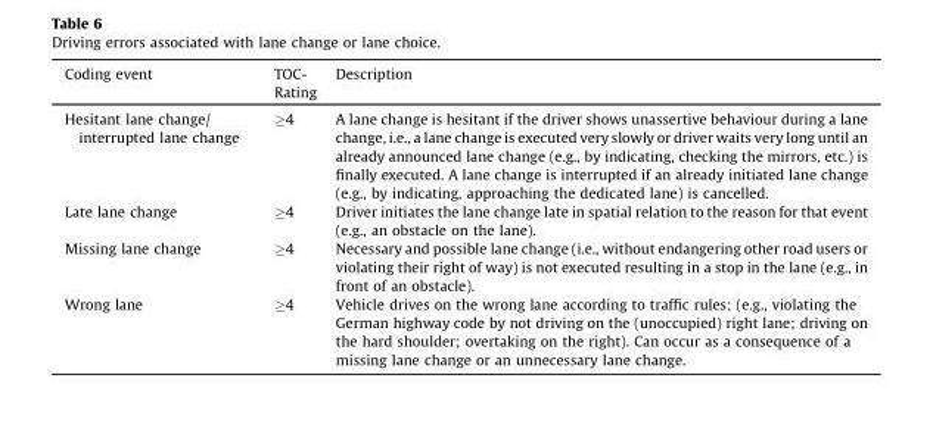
<table><thead><tr><td>Coding event</td><td>TOC- Rating</td><td>Description</td></tr></thead><tbody><tr><td>Hesitant lane change/ interrupted lane change</td><td>≥4</td><td>A lane change is hesitant if the driver shows unassertive behaviour during a lane change, i.e., a lane change is executed very slowly or driver waits very long until an already announced lane change (e.g., by indicating, checking the mirrors, etc.) is finally executed. A lane change is interrupted if an already initiated lane change (e.g., by indicating, approaching the dedicated lane) is cancelled.</td></tr><tr><td>Late lane change</td><td>≥4</td><td>Driver initiates the lane change late in spatial relation to the reason for that event (e.g., an obstacle on the lane).</td></tr><tr><td>Missing lane change</td><td>≥4</td><td>Necessary and possible lane change (i.e., without endangering other road users or violating their right of way) is not executed resulting in a stop in the lane (e.g., in front of an obstacle).</td></tr><tr><td>Wrong lane</td><td>≥4</td><td>Vehicle drives on the wrong lane according to traffic rules; (e.g., violating the German highway code by not driving on the (unoccupied) right lane; driving on the hard shoulder; overtaking on the right). Can occur as a consequence of a missing lane change or an unnecessary lane change.</td></tr></tbody></table>